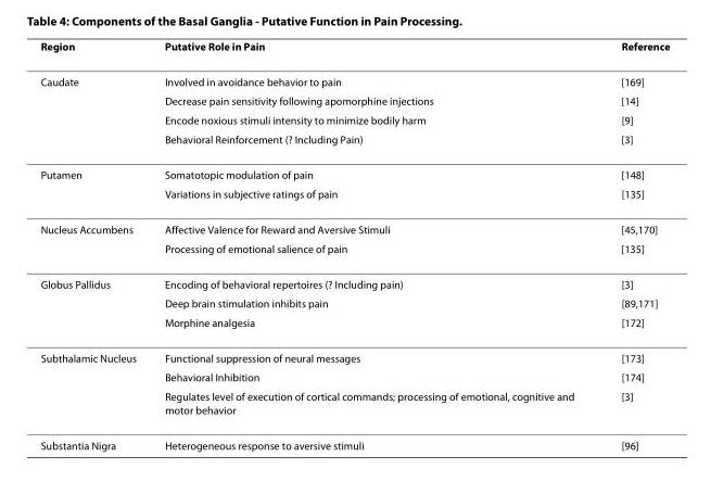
<table><thead><tr><td>Region</td><td>Putative Role in Pain</td><td>Reference</td></tr></thead><tbody><tr><td rowspan="4">Caudate</td><td>Involved in avoidance behavior to pain</td><td>[169]</td></tr><tr><td>Decrease pain sensitivity following apomorphine injections</td><td>[14]</td></tr><tr><td>Encode noxious stimuli intensity to minimize bodily harm</td><td>[9]</td></tr><tr><td>Behavioral Reinforcement (? Including Pain)</td><td>[3]</td></tr><tr><td rowspan="2">Putamen</td><td>Somatotopic modulation of pain</td><td>[148]</td></tr><tr><td>Variations in subjective ratings of pain</td><td>[135]</td></tr><tr><td rowspan="2">Nucleus Accumbens</td><td>Affective Valence for Reward and Aversive Stimuli</td><td>[45,170]</td></tr><tr><td>Processing of emotional salience of pain</td><td>[135]</td></tr><tr><td rowspan="3">Globus Pallidus</td><td>Encoding of behavioral repertoires (? Including pain)</td><td>[3]</td></tr><tr><td>Deep brain stimulation inhibits pain</td><td>[89,171]</td></tr><tr><td>Morphine analgesia</td><td>[172]</td></tr><tr><td rowspan="3">Subthalamic Nucleus</td><td>Functional suppression of neural messages</td><td>[173]</td></tr><tr><td>Behavioral Inhibition</td><td>[174]</td></tr><tr><td>Regulates level of execution of cortical commands; processing of emotional, cognitive and motor behavior</td><td>[3]</td></tr><tr><td>Substantia Nigra</td><td>Heterogeneous response to aversive stimuli</td><td>[96]</td></tr></tbody></table>